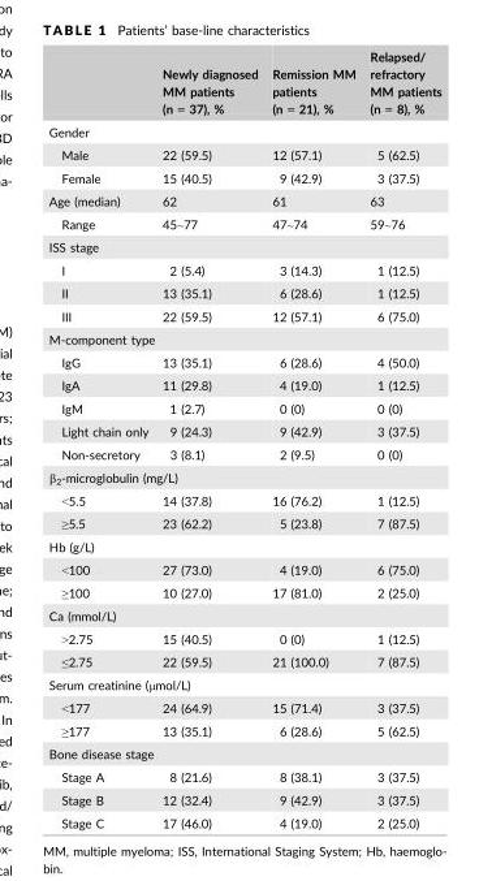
<table><thead><tr><td></td><td>Newly diagnosed MM patients (n = 37), %</td><td>Remission MM patients (n = 21), %</td><td>Relapsed/ refractory MM patients (n = 8), %</td></tr></thead><tbody><tr><td colspan="4">Gender</td></tr><tr><td>Male</td><td>22 (59.5)</td><td>12 (57.1)</td><td>5 (62.5)</td></tr><tr><td>Female</td><td>15 (40.5)</td><td>9 (42.9)</td><td>3 (37.5)</td></tr><tr><td>Age (median)</td><td>62</td><td>61</td><td>63</td></tr><tr><td>Range</td><td>45~77</td><td>47~74</td><td>59~76</td></tr><tr><td colspan="4">ISS stage</td></tr><tr><td>I</td><td>2 (5.4)</td><td>3 (14.3)</td><td>1 (12.5)</td></tr><tr><td>II</td><td>13 (35.1)</td><td>6 (28.6)</td><td>1 (12.5)</td></tr><tr><td>III</td><td>22 (59.5)</td><td>12 (57.1)</td><td>6 (75.0)</td></tr><tr><td colspan="4">M-component type</td></tr><tr><td>IgG</td><td>13 (35.1)</td><td>6 (28.6)</td><td>4 (50.0)</td></tr><tr><td>IgA</td><td>11 (29.8)</td><td>4 (19.0)</td><td>1 (12.5)</td></tr><tr><td>IgM</td><td>1 (2.7)</td><td>0 (0)</td><td>0 (0)</td></tr><tr><td>Light chain only</td><td>9 (24.3)</td><td>9 (42.9)</td><td>3 (37.5)</td></tr><tr><td>Non-secretory</td><td>3 (8.1)</td><td>2 (9.5)</td><td>0 (0)</td></tr><tr><td colspan="4">β<sub>2</sub>-microglobulin (mg/L)</td></tr><tr><td>&lt;5.5</td><td>14 (37.8)</td><td>16 (76.2)</td><td>1 (12.5)</td></tr><tr><td>≥5.5</td><td>23 (62.2)</td><td>5 (23.8)</td><td>7 (87.5)</td></tr><tr><td colspan="4">Hb (g/L)</td></tr><tr><td>&lt;100</td><td>27 (73.0)</td><td>4 (19.0)</td><td>6 (75.0)</td></tr><tr><td>≥100</td><td>10 (27.0)</td><td>17 (81.0)</td><td>2 (25.0)</td></tr><tr><td colspan="4">Ca (mmol/L)</td></tr><tr><td>&gt;2.75</td><td>15 (40.5)</td><td>0 (0)</td><td>1 (12.5)</td></tr><tr><td>≤2.75</td><td>22 (59.5)</td><td>21 (100.0)</td><td>7 (87.5)</td></tr><tr><td colspan="4">Serum creatinine (μmol/L)</td></tr><tr><td>&lt;177</td><td>24 (64.9)</td><td>15 (71.4)</td><td>3 (37.5)</td></tr><tr><td>≥177</td><td>13 (35.1)</td><td>6 (28.6)</td><td>5 (62.5)</td></tr><tr><td colspan="4">Bone disease stage</td></tr><tr><td>Stage A</td><td>8 (21.6)</td><td>8 (38.1)</td><td>3 (37.5)</td></tr><tr><td>Stage B</td><td>12 (32.4)</td><td>9 (42.9)</td><td>3 (37.5)</td></tr><tr><td>Stage C</td><td>17 (46.0)</td><td>4 (19.0)</td><td>2 (25.0)</td></tr></tbody></table>